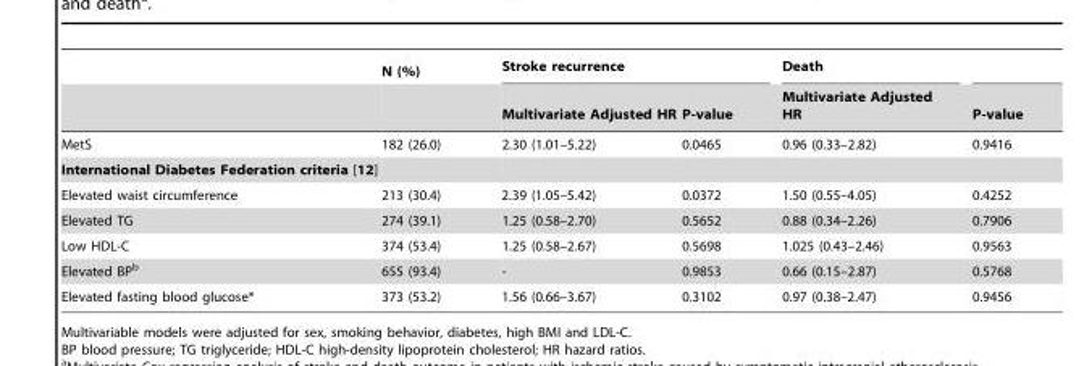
<table><thead><tr><td rowspan="2"></td><td rowspan="2">N (%)</td><td colspan="2">Stroke recurrence</td><td rowspan="2">Death Multivariate Adjusted HR</td><td rowspan="2">P-value</td></tr><tr><td>Multivariate Adjusted HR</td><td>P-value</td></tr></thead><tbody><tr><td>MetS</td><td>182 (26.0)</td><td>2.30 (1.01–5.22)</td><td>0.0465</td><td>0.96 (0.33–2.82)</td><td>0.9416</td></tr><tr><td colspan="6">International Diabetes Federation criteria [12]</td></tr><tr><td>Elevated waist circumference</td><td>213 (30.4)</td><td>2.39 (1.05–5.42)</td><td>0.0372</td><td>1.50 (0.55–4.05)</td><td>0.4252</td></tr><tr><td>Elevated TG</td><td>274 (39.1)</td><td>1.25 (0.58–2.70)</td><td>0.5652</td><td>0.88 (0.34–2.26)</td><td>0.7906</td></tr><tr><td>Low HDL-C</td><td>374 (53.4)</td><td>1.25 (0.58–2.67)</td><td>0.5698</td><td>1.025 (0.43–2.46)</td><td>0.9563</td></tr><tr><td>Elevated BP<sup>b</sup></td><td>655 (93.4)</td><td>-</td><td>0.9853</td><td>0.66 (0.15–2.87)</td><td>0.5768</td></tr><tr><td>Elevated fasting blood glucose*</td><td>373 (53.2)</td><td>1.56 (0.66–3.67)</td><td>0.3102</td><td>0.97 (0.38–2.47)</td><td>0.9456</td></tr></tbody></table>